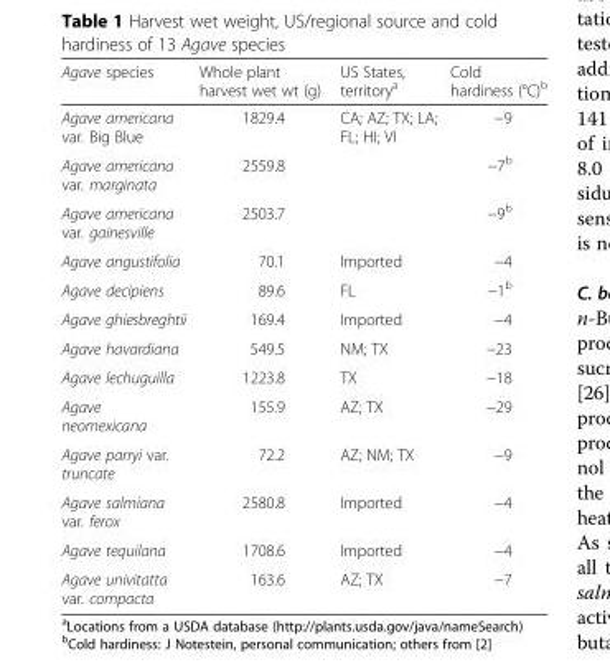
<table><thead><tr><td>Agave species</td><td>Whole plant harvest wet wt (g)</td><td>US States, territory<sup>a</sup></td><td>Cold hardiness (°C)<sup>b</sup></td></tr></thead><tbody><tr><td>Agave americana var. Big Blue</td><td>1829.4</td><td rowspan="3">CA; AZ; TX; LA; FL; HI; VI</td><td>−9</td></tr><tr><td>Agave americana var. marginata</td><td>2559.8</td><td>−7<sup>b</sup></td></tr><tr><td>Agave americana var. gainesville</td><td>2503.7</td><td>−9<sup>b</sup></td></tr><tr><td>Agave angustifolia</td><td>70.1</td><td>Imported</td><td>−4</td></tr><tr><td>Agave decipiens</td><td>89.6</td><td>FL</td><td>−1<sup>b</sup></td></tr><tr><td>Agave ghiesbreghtii</td><td>169.4</td><td>Imported</td><td>−4</td></tr><tr><td>Agave havardiana</td><td>549.5</td><td>NM; TX</td><td>−23</td></tr><tr><td>Agave lechuguilla</td><td>1223.8</td><td>TX</td><td>−18</td></tr><tr><td>Agave neomexicana</td><td>155.9</td><td>AZ; TX</td><td>−29</td></tr><tr><td>Agave parryi var. truncate</td><td>72.2</td><td>AZ; NM; TX</td><td>−9</td></tr><tr><td>Agave salmiana var. ferox</td><td>2580.8</td><td>Imported</td><td>−4</td></tr><tr><td>Agave tequilana</td><td>1708.6</td><td>Imported</td><td>−4</td></tr><tr><td>Agave univitatta var. compacta</td><td>163.6</td><td>AZ; TX</td><td>−7</td></tr></tbody></table>